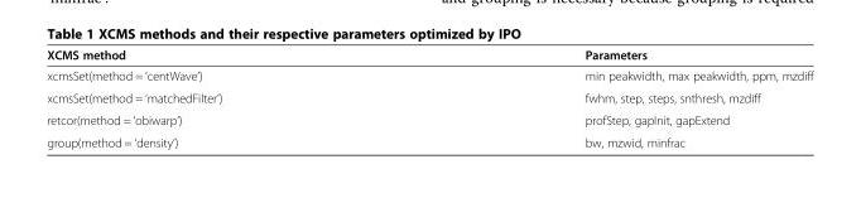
<table><thead><tr><td>XCMS method</td><td>Parameters</td></tr></thead><tbody><tr><td>xcmsSet(method = ‘centWave’)</td><td>min peakwidth, max peakwidth, ppm, mzdiff</td></tr><tr><td>xcmsSet(method = ‘matchedFilter’)</td><td>fwhm, step, steps, snthresh, mzdiff</td></tr><tr><td>retcor(method = ‘obiwarp’)</td><td>profStep, gapInit, gapExtend</td></tr><tr><td>group(method = ‘density’)</td><td>bw, mzwid, minfrac</td></tr></tbody></table>